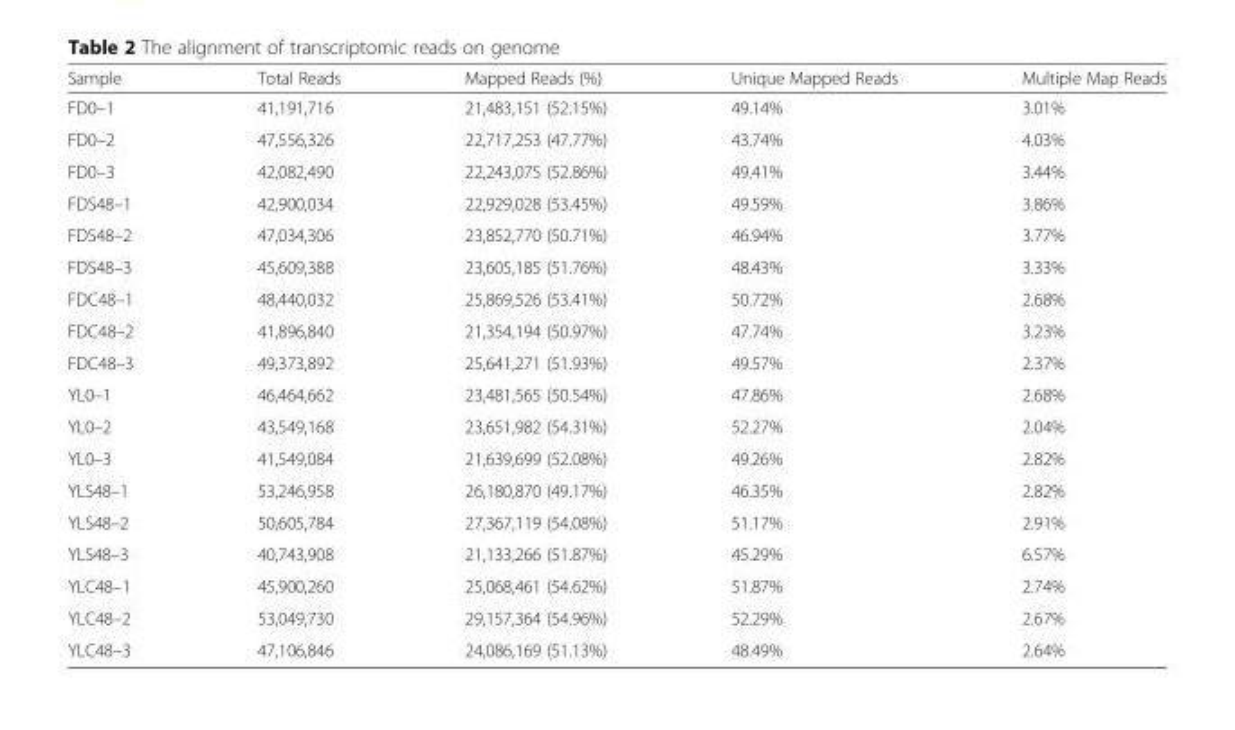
<table><thead><tr><td>Sample</td><td>Total Reads</td><td>Mapped Reads (%)</td><td>Unique Mapped Reads</td><td>Multiple Map Reads</td></tr></thead><tbody><tr><td>FD0–1</td><td>41,191,716</td><td>21,483,151 (52.15%)</td><td>49.14%</td><td>3.01%</td></tr><tr><td>FD0–2</td><td>47,556,326</td><td>22,717,253 (47.77%)</td><td>43.74%</td><td>4.03%</td></tr><tr><td>FD0–3</td><td>42,082,490</td><td>22,243,075 (52.86%)</td><td>49.41%</td><td>3.44%</td></tr><tr><td>FDS48–1</td><td>42,900,034</td><td>22,929,028 (53.45%)</td><td>49.59%</td><td>3.86%</td></tr><tr><td>FDS48–2</td><td>47,034,306</td><td>23,852,770 (50.71%)</td><td>46.94%</td><td>3.77%</td></tr><tr><td>FDS48–3</td><td>45,609,388</td><td>23,605,185 (51.76%)</td><td>48.43%</td><td>3.33%</td></tr><tr><td>FDC48–1</td><td>48,440,032</td><td>25,869,526 (53.41%)</td><td>50.72%</td><td>2.68%</td></tr><tr><td>FDC48–2</td><td>41,896,840</td><td>21,354,194 (50.97%)</td><td>47.74%</td><td>3.23%</td></tr><tr><td>FDC48–3</td><td>49,373,892</td><td>25,641,271 (51.93%)</td><td>49.57%</td><td>2.37%</td></tr><tr><td>YL0–1</td><td>46,464,662</td><td>23,481,565 (50.54%)</td><td>47.86%</td><td>2.68%</td></tr><tr><td>YL0–2</td><td>43,549,168</td><td>23,651,982 (54.31%)</td><td>52.27%</td><td>2.04%</td></tr><tr><td>YL0–3</td><td>41,549,084</td><td>21,639,699 (52.08%)</td><td>49.26%</td><td>2.82%</td></tr><tr><td>YLS48–1</td><td>53,246,958</td><td>26,180,870 (49.17%)</td><td>46.35%</td><td>2.82%</td></tr><tr><td>YLS48–2</td><td>50,605,784</td><td>27,367,119 (54.08%)</td><td>51.17%</td><td>2.91%</td></tr><tr><td>YLS48–3</td><td>40,743,908</td><td>21,133,266 (51.87%)</td><td>45.29%</td><td>6.57%</td></tr><tr><td>YLC48–1</td><td>45,900,260</td><td>25,068,461 (54.62%)</td><td>51.87%</td><td>2.74%</td></tr><tr><td>YLC48–2</td><td>53,049,730</td><td>29,157,364 (54.96%)</td><td>52.29%</td><td>2.67%</td></tr><tr><td>YLC48–3</td><td>47,106,846</td><td>24,086,169 (51.13%)</td><td>48.49%</td><td>2.64%</td></tr></tbody></table>